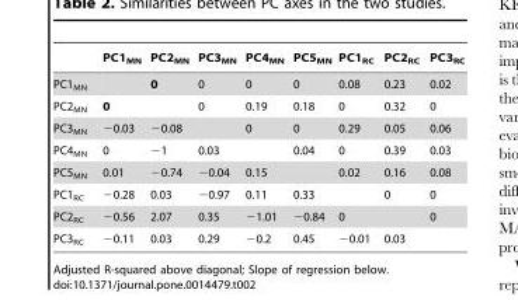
<table><thead><tr><td></td><td>PC1<sub>MN</sub></td><td>PC2<sub>MN</sub></td><td>PC3<sub>MN</sub></td><td>PC4<sub>MN</sub></td><td>PC5<sub>MN</sub></td><td>PC1<sub>RC</sub></td><td>PC2<sub>RC</sub></td><td>PC3<sub>RC</sub></td></tr></thead><tbody><tr><td>PC1<sub>MN</sub></td><td></td><td>0</td><td>0</td><td>0</td><td>0</td><td>0.08</td><td>0.23</td><td>0.02</td></tr><tr><td>PC2<sub>MN</sub></td><td>0</td><td></td><td>0</td><td>0.19</td><td>0.18</td><td>0</td><td>0.32</td><td>0</td></tr><tr><td>PC3<sub>MN</sub></td><td>−0.03</td><td>−0.08</td><td></td><td>0</td><td>0</td><td>0.29</td><td>0.05</td><td>0.06</td></tr><tr><td>PC4<sub>MN</sub></td><td>0</td><td>−1</td><td>0.03</td><td></td><td>0.04</td><td>0</td><td>0.39</td><td>0.03</td></tr><tr><td>PC5<sub>MN</sub></td><td>0.01</td><td>−0.74</td><td>−0.04</td><td>0.15</td><td></td><td>0.02</td><td>0.16</td><td>0.08</td></tr><tr><td>PC1<sub>RC</sub></td><td>−0.28</td><td>0.03</td><td>−0.97</td><td>0.11</td><td>0.33</td><td></td><td>0</td><td>0</td></tr><tr><td>PC2<sub>RC</sub></td><td>−0.56</td><td>2.07</td><td>0.35</td><td>−1.01</td><td>−0.84</td><td>0</td><td></td><td>0</td></tr><tr><td>PC3<sub>RC</sub></td><td>−0.11</td><td>0.03</td><td>0.29</td><td>−0.2</td><td>0.45</td><td>−0.01</td><td>0.03</td><td></td></tr></tbody></table>